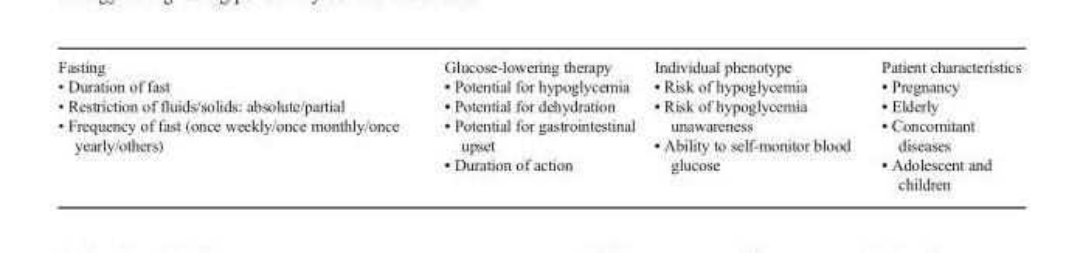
<table><thead><tr><td>Fasting</td><td>Glucose-lowering therapy</td><td>Individual phenotype</td><td>Patient characteristics</td></tr></thead><tbody><tr><td>• Duration of fast • Restriction of fluids/solids: absolute/partial • Frequency of fast (once weekly/once monthly/once yearly/others)</td><td>• Potential for hypoglycemia • Potential for dehydration • Potential for gastrointestinal upset • Duration of action</td><td>• Risk of hypoglycemia • Risk of hypoglycemia unawareness • Ability to self-monitor blood glucose</td><td>• Pregnancy • Elderly • Concomitant diseases • Adolescent and children</td></tr></tbody></table>